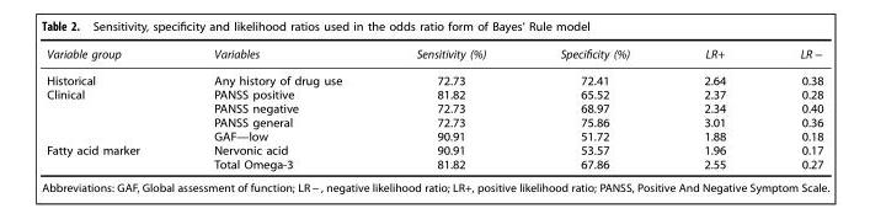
<table><thead><tr><td>Variable group</td><td>Variables</td><td>Sensitivity (%)</td><td>Specificity (%)</td><td>LR+</td><td>LR −</td></tr></thead><tbody><tr><td>Historical</td><td>Any history of drug use</td><td>72.73</td><td>72.41</td><td>2.64</td><td>0.38</td></tr><tr><td rowspan="4">Clinical</td><td>PANSS positive</td><td>81.82</td><td>65.52</td><td>2.37</td><td>0.28</td></tr><tr><td>PANSS negative</td><td>72.73</td><td>68.97</td><td>2.34</td><td>0.40</td></tr><tr><td>PANSS general</td><td>72.73</td><td>75.86</td><td>3.01</td><td>0.36</td></tr><tr><td>GAF—low</td><td>90.91</td><td>51.72</td><td>1.88</td><td>0.18</td></tr><tr><td rowspan="2">Fatty acid marker</td><td>Nervonic acid</td><td>90.91</td><td>53.57</td><td>1.96</td><td>0.17</td></tr><tr><td>Total Omega-3</td><td>81.82</td><td>67.86</td><td>2.55</td><td>0.27</td></tr></tbody></table>